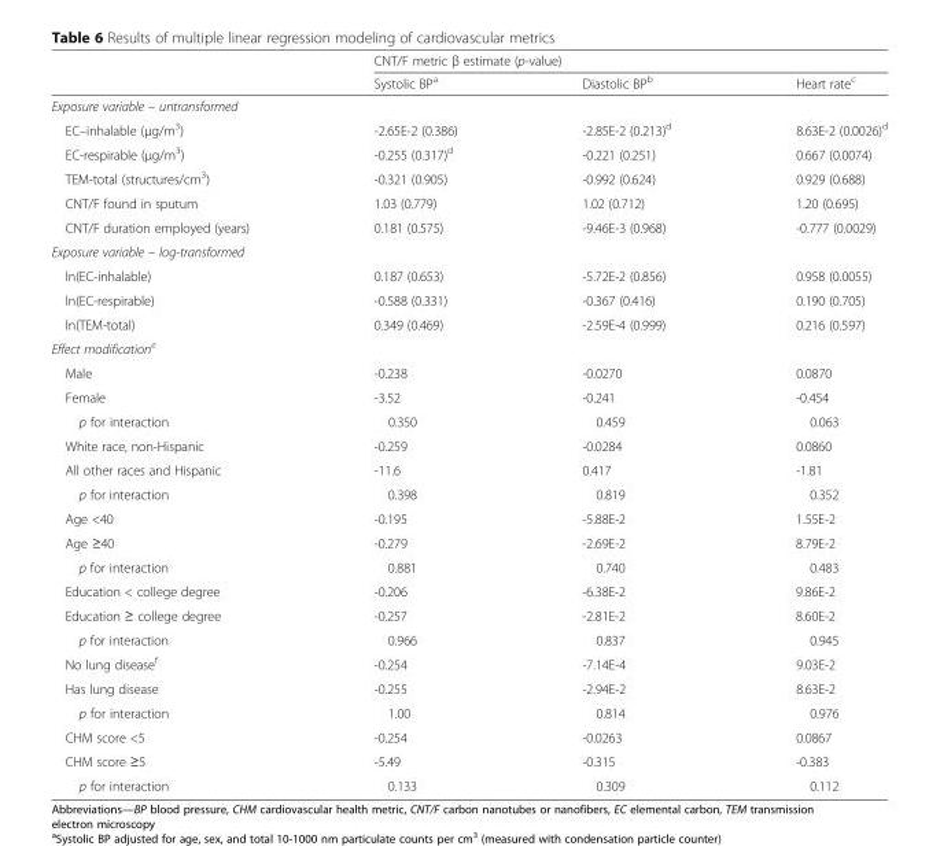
<table><thead><tr><td rowspan="2"></td><td colspan="3">CNT/F metric β estimate (p-value)</td></tr><tr><td>Systolic BP<sup>a</sup></td><td>Diastolic BP<sup>b</sup></td><td>Heart rate<sup>c</sup></td></tr></thead><tbody><tr><td colspan="4">Exposure variable – untransformed</td></tr><tr><td>EC–inhalable (μg/m<sup>3</sup>)</td><td>-2.65E-2 (0.386)</td><td>-2.85E-2 (0.213)<sup>d</sup></td><td>8.63E-2 (0.0026)<sup>d</sup></td></tr><tr><td>EC-respirable (μg/m<sup>3</sup>)</td><td>-0.255 (0.317)<sup>d</sup></td><td>-0.221 (0.251)</td><td>0.667 (0.0074)</td></tr><tr><td>TEM-total (structures/cm<sup>3</sup>)</td><td>-0.321 (0.905)</td><td>-0.992 (0.624)</td><td>0.929 (0.688)</td></tr><tr><td>CNT/F found in sputum</td><td>1.03 (0.779)</td><td>1.02 (0.712)</td><td>1.20 (0.695)</td></tr><tr><td>CNT/F duration employed (years)</td><td>0.181 (0.575)</td><td>-9.46E-3 (0.968)</td><td>-0.777 (0.0029)</td></tr><tr><td colspan="4">Exposure variable – log-transformed</td></tr><tr><td>ln(EC-inhalable)</td><td>0.187 (0.653)</td><td>-5.72E-2 (0.856)</td><td>0.958 (0.0055)</td></tr><tr><td>ln(EC-respirable)</td><td>-0.588 (0.331)</td><td>-0.367 (0.416)</td><td>0.190 (0.705)</td></tr><tr><td>ln(TEM-total)</td><td>0.349 (0.469)</td><td>-2.59E-4 (0.999)</td><td>0.216 (0.597)</td></tr><tr><td colspan="4">Effect modification<sup>e</sup></td></tr><tr><td>Male</td><td>-0.238</td><td>-0.0270</td><td>0.0870</td></tr><tr><td>Female</td><td>-3.52</td><td>-0.241</td><td>-0.454</td></tr><tr><td>p for interaction</td><td>0.350</td><td>0.459</td><td>0.063</td></tr><tr><td>White race, non-Hispanic</td><td>-0.259</td><td>-0.0284</td><td>0.0860</td></tr><tr><td>All other races and Hispanic</td><td>-11.6</td><td>0.417</td><td>-1.81</td></tr><tr><td>p for interaction</td><td>0.398</td><td>0.819</td><td>0.352</td></tr><tr><td>Age &lt;40</td><td>-0.195</td><td>-5.88E-2</td><td>1.55E-2</td></tr><tr><td>Age ≥40</td><td>-0.279</td><td>-2.69E-2</td><td>8.79E-2</td></tr><tr><td>p for interaction</td><td>0.881</td><td>0.740</td><td>0.483</td></tr><tr><td>Education &lt; college degree</td><td>-0.206</td><td>-6.38E-2</td><td>9.86E-2</td></tr><tr><td>Education ≥ college degree</td><td>-0.257</td><td>-2.81E-2</td><td>8.60E-2</td></tr><tr><td>p for interaction</td><td>0.966</td><td>0.837</td><td>0.945</td></tr><tr><td>No lung disease<sup>f</sup></td><td>-0.254</td><td>-7.14E-4</td><td>9.03E-2</td></tr><tr><td>Has lung disease</td><td>-0.255</td><td>-2.94E-2</td><td>8.63E-2</td></tr><tr><td>p for interaction</td><td>1.00</td><td>0.814</td><td>0.976</td></tr><tr><td>CHM score &lt;5</td><td>-0.254</td><td>-0.0263</td><td>0.0867</td></tr><tr><td>CHM score ≥5</td><td>-5.49</td><td>-0.315</td><td>-0.383</td></tr><tr><td>p for interaction</td><td>0.133</td><td>0.309</td><td>0.112</td></tr></tbody></table>